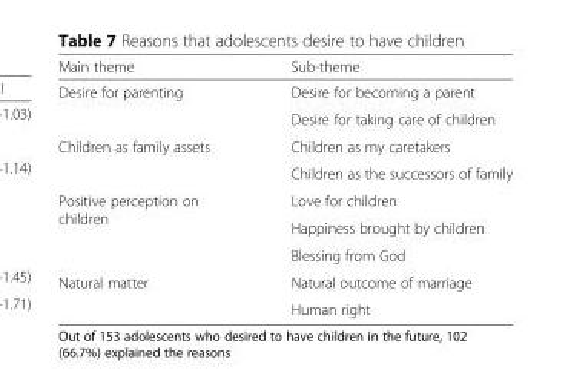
<table><thead><tr><td>Main theme</td><td>Sub-theme</td></tr></thead><tbody><tr><td rowspan="2">Desire for parenting</td><td>Desire for becoming a parent</td></tr><tr><td>Desire for taking care of children</td></tr><tr><td rowspan="2">Children as family assets</td><td>Children as my caretakers</td></tr><tr><td>Children as the successors of family</td></tr><tr><td rowspan="3">Positive perception on children</td><td>Love for children</td></tr><tr><td>Happiness brought by children</td></tr><tr><td>Blessing from God</td></tr><tr><td rowspan="2">Natural matter</td><td>Natural outcome of marriage</td></tr><tr><td>Human right</td></tr></tbody></table>